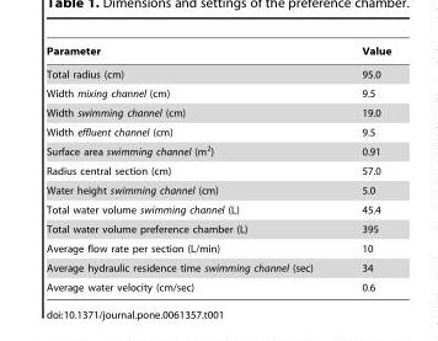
<table><thead><tr><td>Parameter</td><td>Value</td></tr></thead><tbody><tr><td>Total radius (cm)</td><td>95.0</td></tr><tr><td>Width mixing channel (cm)</td><td>9.5</td></tr><tr><td>Width swimming channel (cm)</td><td>19.0</td></tr><tr><td>Width effluent channel (cm)</td><td>9.5</td></tr><tr><td>Surface area swimming channel (m<sup>2</sup>)</td><td>0.91</td></tr><tr><td>Radius central section (cm)</td><td>57.0</td></tr><tr><td>Water height swimming channel (cm)</td><td>5.0</td></tr><tr><td>Total water volume swimming channel (L)</td><td>45.4</td></tr><tr><td>Total water volume preference chamber (L)</td><td>395</td></tr><tr><td>Average flow rate per section (L/min)</td><td>10</td></tr><tr><td>Average hydraulic residence time swimming channel (sec)</td><td>34</td></tr><tr><td>Average water velocity (cm/sec)</td><td>0.6</td></tr></tbody></table>